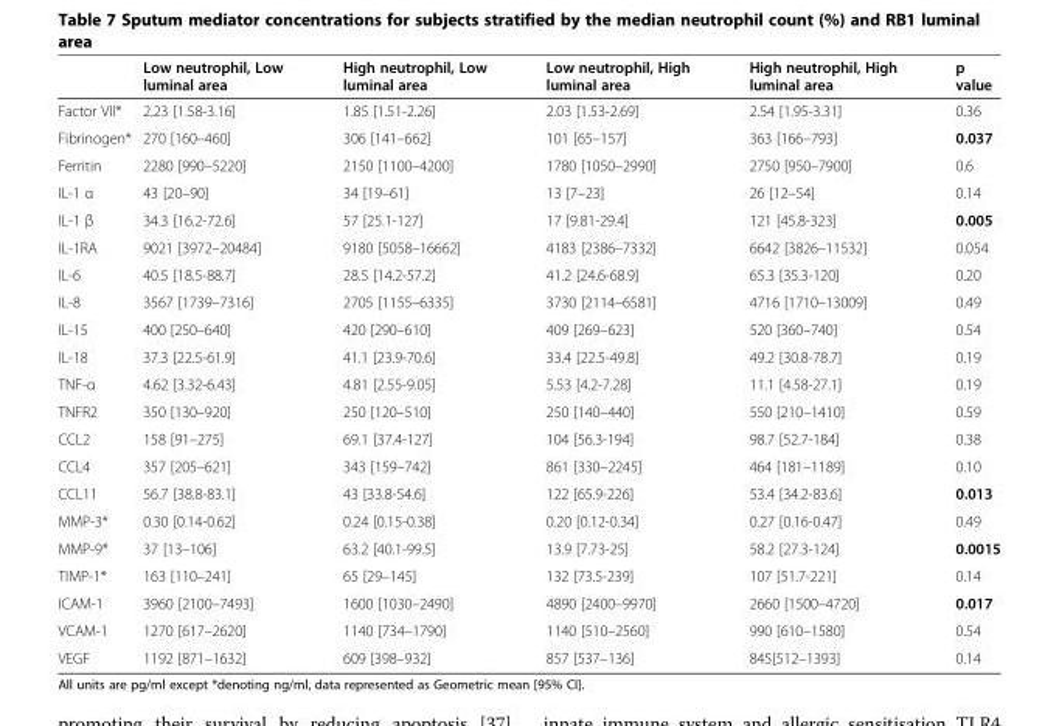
<table><thead><tr><td></td><td>Low neutrophil, Low luminal area</td><td>High neutrophil, Low luminal area</td><td>Low neutrophil, High luminal area</td><td>High neutrophil, High luminal area</td><td>p value</td></tr></thead><tbody><tr><td>Factor VII*</td><td>2.23 [1.58-3.16]</td><td>1.85 [1.51-2.26]</td><td>2.03 [1.53-2.69]</td><td>2.54 [1.95-3.31]</td><td>0.36</td></tr><tr><td>Fibrinogen*</td><td>270 [160–460]</td><td>306 [141–662]</td><td>101 [65–157]</td><td>363 [166–793]</td><td>0.037</td></tr><tr><td>Ferritin</td><td>2280 [990–5220]</td><td>2150 [1100–4200]</td><td>1780 [1050–2990]</td><td>2750 [950–7900]</td><td>0.6</td></tr><tr><td>IL-1 α</td><td>43 [20–90]</td><td>34 [19–61]</td><td>13 [7–23]</td><td>26 [12–54]</td><td>0.14</td></tr><tr><td>IL-1 β</td><td>34.3 [16.2-72.6]</td><td>57 [25.1-127]</td><td>17 [9.81-29.4]</td><td>121 [45.8-323]</td><td>0.005</td></tr><tr><td>IL-1RA</td><td>9021 [3972–20484]</td><td>9180 [5058–16662]</td><td>4183 [2386–7332]</td><td>6642 [3826–11532]</td><td>0.054</td></tr><tr><td>IL-6</td><td>40.5 [18.5-88.7]</td><td>28.5 [14.2-57.2]</td><td>41.2 [24.6-68.9]</td><td>65.3 [35.3-120]</td><td>0.20</td></tr><tr><td>IL-8</td><td>3567 [1739–7316]</td><td>2705 [1155–6335]</td><td>3730 [2114–6581]</td><td>4716 [1710–13009]</td><td>0.49</td></tr><tr><td>IL-15</td><td>400 [250–640]</td><td>420 [290–610]</td><td>409 [269–623]</td><td>520 [360–740]</td><td>0.54</td></tr><tr><td>IL-18</td><td>37.3 [22.5-61.9]</td><td>41.1 [23.9-70.6]</td><td>33.4 [22.5-49.8]</td><td>49.2 [30.8-78.7]</td><td>0.19</td></tr><tr><td>TNF-α</td><td>4.62 [3.32-6.43]</td><td>4.81 [2.55-9.05]</td><td>5.53 [4.2-7.28]</td><td>11.1 [4.58-27.1]</td><td>0.19</td></tr><tr><td>TNFR2</td><td>350 [130–920]</td><td>250 [120–510]</td><td>250 [140–440]</td><td>550 [210–1410]</td><td>0.59</td></tr><tr><td>CCL2</td><td>158 [91–275]</td><td>69.1 [37.4-127]</td><td>104 [56.3-194]</td><td>98.7 [52.7-184]</td><td>0.38</td></tr><tr><td>CCL4</td><td>357 [205–621]</td><td>343 [159–742]</td><td>861 [330–2245]</td><td>464 [181–1189]</td><td>0.10</td></tr><tr><td>CCL11</td><td>56.7 [38.8-83.1]</td><td>43 [33.8-54.6]</td><td>122 [65.9-226]</td><td>53.4 [34.2-83.6]</td><td>0.013</td></tr><tr><td>MMP-3*</td><td>0.30 [0.14-0.62]</td><td>0.24 [0.15-0.38]</td><td>0.20 [0.12-0.34]</td><td>0.27 [0.16-0.47]</td><td>0.49</td></tr><tr><td>MMP-9*</td><td>37 [13–106]</td><td>63.2 [40.1-99.5]</td><td>13.9 [7.73-25]</td><td>58.2 [27.3-124]</td><td>0.0015</td></tr><tr><td>TIMP-1*</td><td>163 [110–241]</td><td>65 [29–145]</td><td>132 [73.5-239]</td><td>107 [51.7-221]</td><td>0.14</td></tr><tr><td>ICAM-1</td><td>3960 [2100–7493]</td><td>1600 [1030–2490]</td><td>4890 [2400–9970]</td><td>2660 [1500–4720]</td><td>0.017</td></tr><tr><td>VCAM-1</td><td>1270 [617–2620]</td><td>1140 [734–1790]</td><td>1140 [510–2560]</td><td>990 [610–1580]</td><td>0.54</td></tr><tr><td>VEGF</td><td>1192 [871–1632]</td><td>609 [398–932]</td><td>857 [537–136]</td><td>845[512–1393]</td><td>0.14</td></tr></tbody></table>